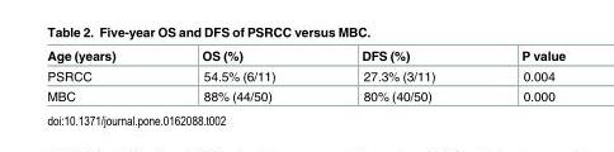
<table><thead><tr><td>Age (years)</td><td>OS (%)</td><td>DFS (%)</td><td>P value</td></tr></thead><tbody><tr><td>PSRCC</td><td>54.5% (6/11)</td><td>27.3% (3/11)</td><td>0.004</td></tr><tr><td>MBC</td><td>88% (44/50)</td><td>80% (40/50)</td><td>0.000</td></tr></tbody></table>